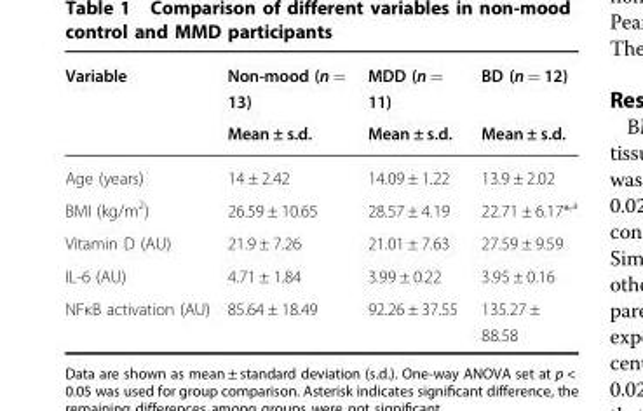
<table><thead><tr><td rowspan="2">Variable</td><td rowspan="2">Non-mood (n = 13) Mean ± s.d.</td><td rowspan="2">MDD (n = 11) Mean ± s.d.</td><td rowspan="2">BD (n = 12) Mean ± s.d.</td></tr><tr></tr></thead><tbody><tr><td>Age (years)</td><td>14 ± 2.42</td><td>14.09 ± 1.22</td><td>13.9 ± 2.02</td></tr><tr><td>BMI (kg/m<sup>2</sup>)</td><td>26.59 ± 10.65</td><td>28.57 ± 4.19</td><td>22.71 ± 6.17*<sup>,a</sup></td></tr><tr><td>Vitamin D (AU)</td><td>21.9 ± 7.26</td><td>21.01 ± 7.63</td><td>27.59 ± 9.59</td></tr><tr><td>IL-6 (AU)</td><td>4.71 ± 1.84</td><td>3.99 ± 0.22</td><td>3.95 ± 0.16</td></tr><tr><td>NFκB activation (AU)</td><td>85.64 ± 18.49</td><td>92.26 ± 37.55</td><td>135.27 ± 88.58</td></tr></tbody></table>